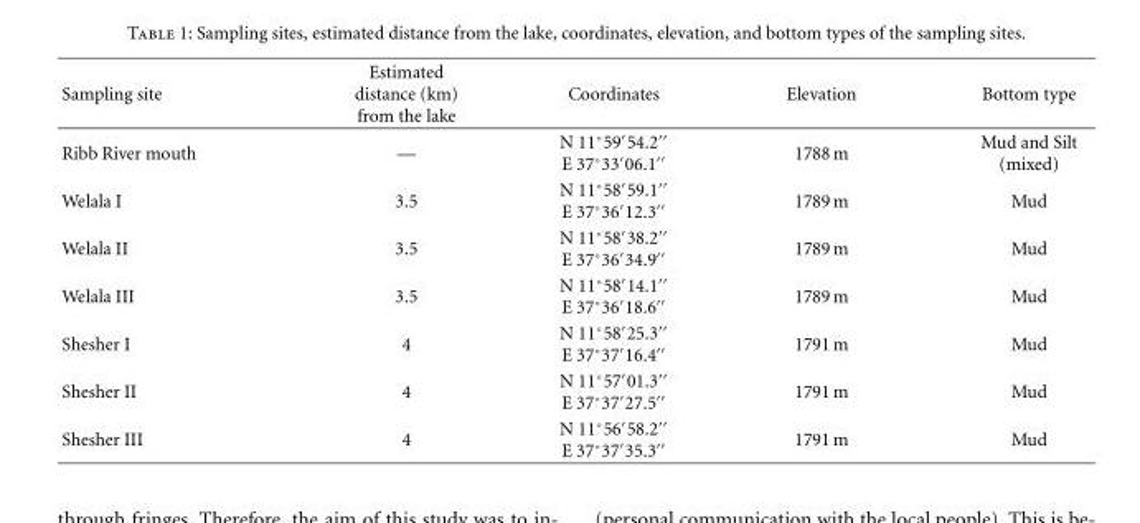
<table><thead><tr><td>Sampling site</td><td>Estimated distance (km) from the lake</td><td>Coordinates</td><td>Elevation</td><td>Bottom type</td></tr></thead><tbody><tr><td>Ribb River mouth</td><td>—</td><td>N 11◦59′54.2′′ E 37◦33′06.1′′</td><td>1788 m</td><td>Mud and Silt (mixed)</td></tr><tr><td>Welala I</td><td>3.5</td><td>N 11◦58′59.1′′ E 37◦36′12.3′′</td><td>1789 m</td><td>Mud</td></tr><tr><td>Welala II</td><td>3.5</td><td>N 11◦58′38.2′′ E 37◦36′34.9′′</td><td>1789 m</td><td>Mud</td></tr><tr><td>Welala III</td><td>3.5</td><td>N 11◦58′14.1′′ E 37◦36′18.6′′</td><td>1789 m</td><td>Mud</td></tr><tr><td>Shesher I</td><td>4</td><td>N 11◦58′25.3′′ E 37◦37′16.4′′</td><td>1791 m</td><td>Mud</td></tr><tr><td>Shesher II</td><td>4</td><td>N 11◦57′01.3′′ E 37◦37′27.5′′</td><td>1791 m</td><td>Mud</td></tr><tr><td>Shesher III</td><td>4</td><td>N 11◦56′58.2′′ E 37◦37′35.3′′</td><td>1791 m</td><td>Mud</td></tr></tbody></table>